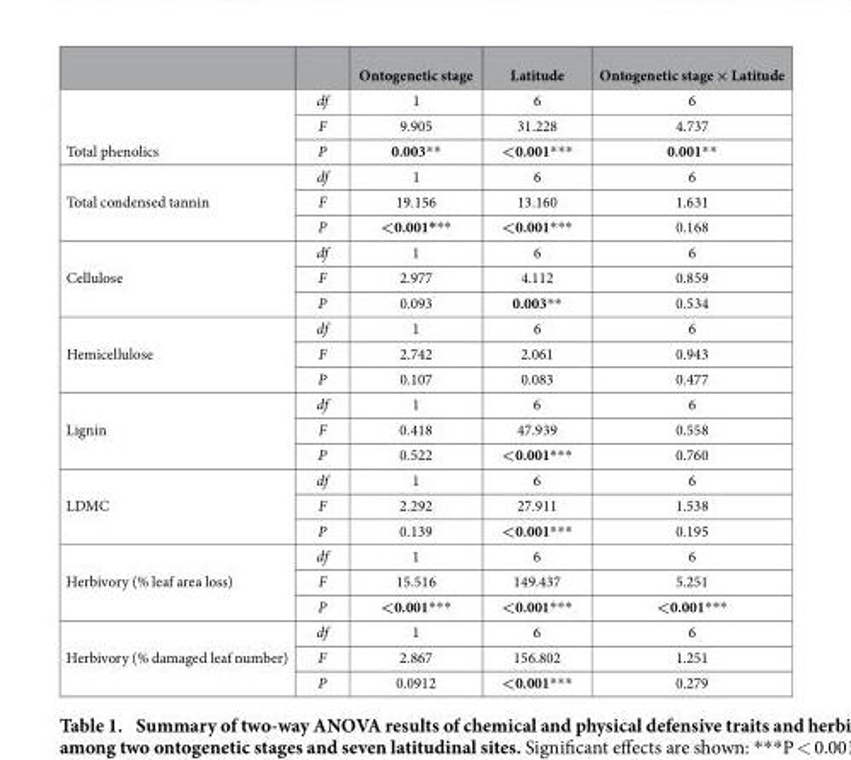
<table><thead><tr><td></td><td></td><td>Ontogenetic stage</td><td>Latitude</td><td>Ontogenetic stage × Latitude</td></tr></thead><tbody><tr><td rowspan="3">Total phenolics</td><td>df</td><td>1</td><td>6</td><td>6</td></tr><tr><td>F</td><td>9.905</td><td>31.228</td><td>4.737</td></tr><tr><td>P</td><td>0.003* *</td><td>&lt;0.001* * *</td><td>0.001* *</td></tr><tr><td rowspan="3">Total condensed tannin</td><td>df</td><td>1</td><td>6</td><td>6</td></tr><tr><td>F</td><td>19.156</td><td>13.160</td><td>1.631</td></tr><tr><td>P</td><td>&lt;0.001** *</td><td>&lt;0.001* * *</td><td>0.168</td></tr><tr><td rowspan="3">Cellulose</td><td>df</td><td>1</td><td>6</td><td>6</td></tr><tr><td>F</td><td>2.977</td><td>4.112</td><td>0.859</td></tr><tr><td>P</td><td>0.093</td><td>0.003* *</td><td>0.534</td></tr><tr><td rowspan="3">Hemicellulose</td><td>df</td><td>1</td><td>6</td><td>6</td></tr><tr><td>F</td><td>2.742</td><td>2.061</td><td>0.943</td></tr><tr><td>P</td><td>0.107</td><td>0.083</td><td>0.477</td></tr><tr><td rowspan="3">Lignin</td><td>df</td><td>1</td><td>6</td><td>6</td></tr><tr><td>F</td><td>0.418</td><td>47.939</td><td>0.558</td></tr><tr><td>P</td><td>0.522</td><td>&lt;0.001* * *</td><td>0.760</td></tr><tr><td rowspan="3">LDMC</td><td>df</td><td>1</td><td>6</td><td>6</td></tr><tr><td>F</td><td>2.292</td><td>27.911</td><td>1.538</td></tr><tr><td>P</td><td>0.139</td><td>&lt;0.001* * *</td><td>0.195</td></tr><tr><td rowspan="3">Herbivory (% leaf area loss)</td><td>df</td><td>1</td><td>6</td><td>6</td></tr><tr><td>F</td><td>15.516</td><td>149.437</td><td>5.251</td></tr><tr><td>P</td><td>&lt;0.001* * *</td><td>&lt;0.001* * *</td><td>&lt;0.001* * *</td></tr><tr><td rowspan="3">Herbivory (% damaged leaf number)</td><td>df</td><td>1</td><td>6</td><td>6</td></tr><tr><td>F</td><td>2.867</td><td>156.802</td><td>1.251</td></tr><tr><td>P</td><td>0.0912</td><td>&lt;0.001* * *</td><td>0.279</td></tr></tbody></table>